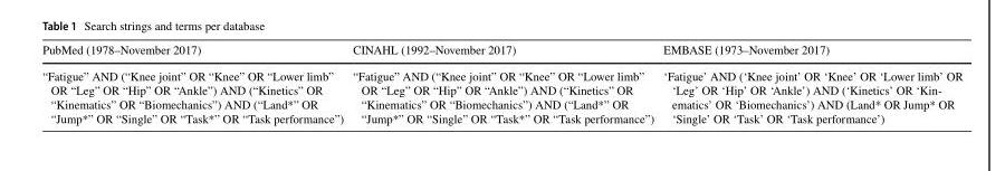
<table><thead><tr><td>PubMed (1978–November 2017)</td><td>CINAHL (1992–November 2017)</td><td>EMBASE (1973–November 2017)</td></tr></thead><tbody><tr><td>“Fatigue” AND (“Knee joint” OR “Knee” OR “Lower limb” OR “Leg” OR “Hip” OR “Ankle”) AND (“Kinetics” OR “Kinematics” OR “Biomechanics”) AND (“Land*” OR “Jump*” OR “Single” OR “Task*” OR “Task performance”)</td><td>“Fatigue” AND (“Knee joint” OR “Knee” OR “Lower limb” OR “Leg” OR “Hip” OR “Ankle”) AND (“Kinetics” OR “Kinematics” OR “Biomechanics”) AND (“Land*” OR “Jump*” OR “Single” OR “Task*” OR “Task performance”)</td><td>‘Fatigue’ AND (‘Knee joint’ OR ‘Knee’ OR ‘Lower limb’ OR ‘Leg’ OR ‘Hip’ OR ‘Ankle’) AND (‘Kinetics’ OR ‘Kin- ematics’ OR ‘Biomechanics’) AND (Land* OR Jump* OR ‘Single’ OR ‘Task’ OR ‘Task performance’)</td></tr></tbody></table>